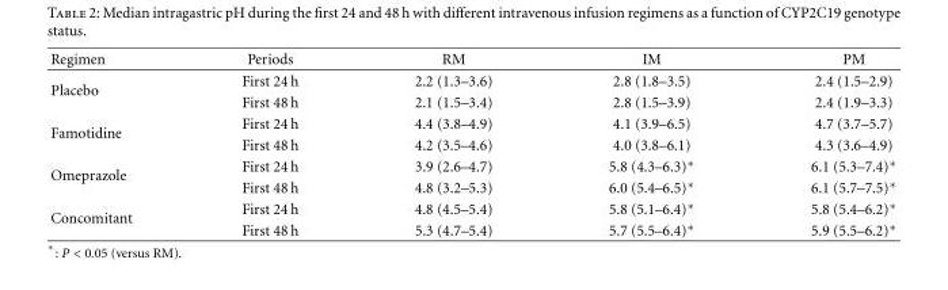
<table><thead><tr><td>Regimen</td><td>Periods</td><td>RM</td><td>IM</td><td>PM</td></tr></thead><tbody><tr><td rowspan="2">Placebo</td><td>First 24 h</td><td>2.2 (1.3–3.6)</td><td>2.8 (1.8–3.5)</td><td>2.4 (1.5–2.9)</td></tr><tr><td>First 48 h</td><td>2.1 (1.5–3.4)</td><td>2.8 (1.5–3.9)</td><td>2.4 (1.9–3.3)</td></tr><tr><td rowspan="2">Famotidine</td><td>First 24 h</td><td>4.4 (3.8–4.9)</td><td>4.1 (3.9–6.5)</td><td>4.7 (3.7–5.7)</td></tr><tr><td>First 48 h</td><td>4.2 (3.5–4.6)</td><td>4.0 (3.8–6.1)</td><td>4.3 (3.6–4.9)</td></tr><tr><td rowspan="2">Omeprazole</td><td>First 24 h</td><td>3.9 (2.6–4.7)</td><td>5.8 (4.3–6.3)∗</td><td>6.1 (5.3–7.4)∗</td></tr><tr><td>First 48 h</td><td>4.8 (3.2–5.3)</td><td>6.0 (5.4–6.5)∗</td><td>6.1 (5.7–7.5)∗</td></tr><tr><td rowspan="2">Concomitant</td><td>First 24 h</td><td>4.8 (4.5–5.4)</td><td>5.8 (5.1–6.4)∗</td><td>5.8 (5.4–6.2)∗</td></tr><tr><td>First 48 h</td><td>5.3 (4.7–5.4)</td><td>5.7 (5.5–6.4)∗</td><td>5.9 (5.5–6.2)∗</td></tr></tbody></table>